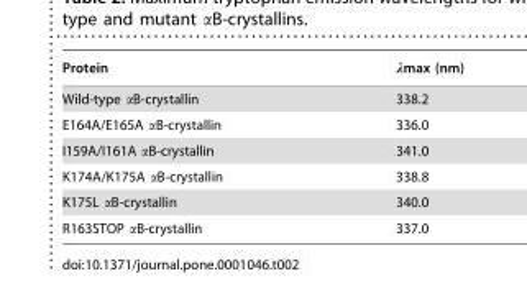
<table><thead><tr><td>Protein</td><td>λmax (nm)</td></tr></thead><tbody><tr><td>Wild-type αB-crystallin</td><td>338.2</td></tr><tr><td>E164A/E165A αB-crystallin</td><td>336.0</td></tr><tr><td>I159A/I161A αB-crystallin</td><td>341.0</td></tr><tr><td>K174A/K175A αB-crystallin</td><td>338.8</td></tr><tr><td>K175L αB-crystallin</td><td>340.0</td></tr><tr><td>R163STOP αB-crystallin</td><td>337.0</td></tr></tbody></table>